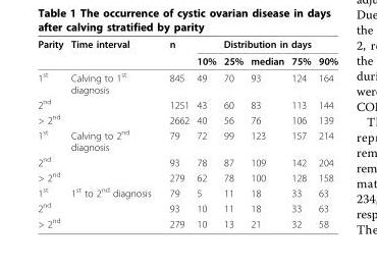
<table><thead><tr><td rowspan="2">Parity</td><td rowspan="2">Time interval</td><td rowspan="2">n</td><td colspan="5">Distribution in days</td></tr><tr><td>10%</td><td>25%</td><td>median</td><td>75%</td><td>90%</td></tr></thead><tbody><tr><td>1<sup>st</sup></td><td>Calving to 1<sup>st</sup> diagnosis</td><td>845</td><td>49</td><td>70</td><td>93</td><td>124</td><td>164</td></tr><tr><td>2<sup>nd</sup></td><td></td><td>1251</td><td>43</td><td>60</td><td>83</td><td>113</td><td>144</td></tr><tr><td>&gt; 2<sup>nd</sup></td><td></td><td>2662</td><td>40</td><td>56</td><td>76</td><td>106</td><td>139</td></tr><tr><td>1<sup>st</sup></td><td>Calving to 2<sup>nd</sup> diagnosis</td><td>79</td><td>72</td><td>99</td><td>123</td><td>157</td><td>214</td></tr><tr><td>2<sup>nd</sup></td><td></td><td>93</td><td>78</td><td>87</td><td>109</td><td>142</td><td>204</td></tr><tr><td>&gt; 2<sup>nd</sup></td><td></td><td>279</td><td>62</td><td>78</td><td>100</td><td>128</td><td>158</td></tr><tr><td>1<sup>st</sup></td><td>1<sup>st</sup> to 2<sup>nd</sup> diagnosis</td><td>79</td><td>5</td><td>11</td><td>18</td><td>33</td><td>63</td></tr><tr><td>2<sup>nd</sup></td><td></td><td>93</td><td>10</td><td>11</td><td>18</td><td>33</td><td>63</td></tr><tr><td>&gt; 2<sup>nd</sup></td><td></td><td>279</td><td>10</td><td>13</td><td>21</td><td>32</td><td>58</td></tr></tbody></table>